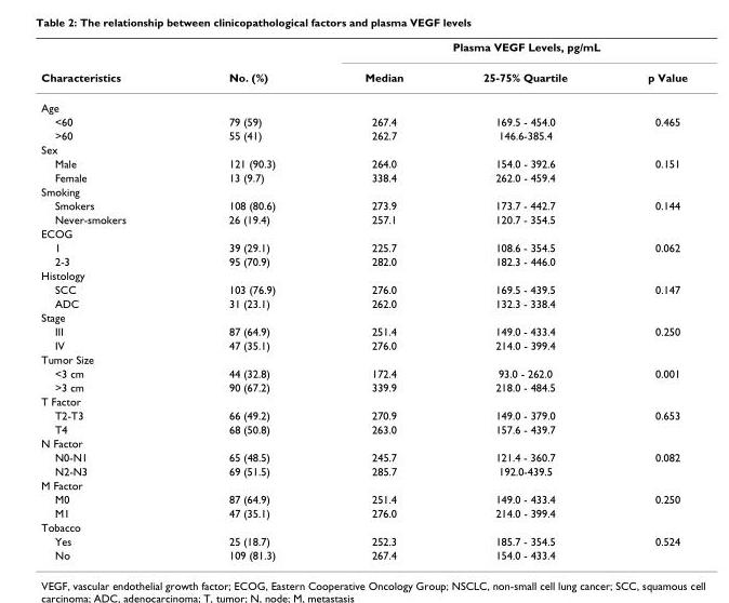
<table><thead><tr><td rowspan="2">Characteristics</td><td rowspan="2">No. (%)</td><td colspan="3">Plasma VEGF Levels, pg/mL</td></tr><tr><td>Median</td><td>25-75% Quartile</td><td>p Value</td></tr></thead><tbody><tr><td colspan="5">Age</td></tr><tr><td>&lt;60</td><td>79 (59)</td><td>267.4</td><td>169.5 - 454.0</td><td>0.465</td></tr><tr><td>&gt;60</td><td>55 (41)</td><td>262.7</td><td>146.6-385.4</td><td></td></tr><tr><td colspan="5">Sex</td></tr><tr><td>Male</td><td>121 (90.3)</td><td>264.0</td><td>154.0 - 392.6</td><td>0.151</td></tr><tr><td>Female</td><td>13 (9.7)</td><td>338.4</td><td>262.0 - 459.4</td><td></td></tr><tr><td colspan="5">Smoking</td></tr><tr><td>Smokers</td><td>108 (80.6)</td><td>273.9</td><td>173.7 - 442.7</td><td>0.144</td></tr><tr><td>Never-smokers</td><td>26 (19.4)</td><td>257.1</td><td>120.7 - 354.5</td><td></td></tr><tr><td colspan="5">ECOG</td></tr><tr><td>1</td><td>39 (29.1)</td><td>225.7</td><td>108.6 - 354.5</td><td>0.062</td></tr><tr><td>2-3</td><td>95 (70.9)</td><td>282.0</td><td>182.3 - 446.0</td><td></td></tr><tr><td colspan="5">Histology</td></tr><tr><td>SCC</td><td>103 (76.9)</td><td>276.0</td><td>169.5 - 439.5</td><td>0.147</td></tr><tr><td>ADC</td><td>31 (23.1)</td><td>262.0</td><td>132.3 - 338.4</td><td></td></tr><tr><td colspan="5">Stage</td></tr><tr><td>III</td><td>87 (64.9)</td><td>251.4</td><td>149.0 - 433.4</td><td>0.250</td></tr><tr><td>IV</td><td>47 (35.1)</td><td>276.0</td><td>214.0 - 399.4</td><td></td></tr><tr><td colspan="5">Tumor Size</td></tr><tr><td>&lt;3 cm</td><td>44 (32.8)</td><td>172.4</td><td>93.0 - 262.0</td><td>0.001</td></tr><tr><td>&gt;3 cm</td><td>90 (67.2)</td><td>339.9</td><td>218.0 - 484.5</td><td></td></tr><tr><td colspan="5">T Factor</td></tr><tr><td>T2-T3</td><td>66 (49.2)</td><td>270.9</td><td>149.0 - 379.0</td><td>0.653</td></tr><tr><td>T4</td><td>68 (50.8)</td><td>263.0</td><td>157.6 - 439.7</td><td></td></tr><tr><td colspan="5">N Factor</td></tr><tr><td>N0-N1</td><td>65 (48.5)</td><td>245.7</td><td>121.4 - 360.7</td><td>0.082</td></tr><tr><td>N2-N3</td><td>69 (51.5)</td><td>285.7</td><td>192.0-439.5</td><td></td></tr><tr><td colspan="5">M Factor</td></tr><tr><td>M0</td><td>87 (64.9)</td><td>251.4</td><td>149.0 - 433.4</td><td>0.250</td></tr><tr><td>M1</td><td>47 (35.1)</td><td>276.0</td><td>214.0 - 399.4</td><td></td></tr><tr><td colspan="5">Tobacco</td></tr><tr><td>Yes</td><td>25 (18.7)</td><td>252.3</td><td>185.7 - 354.5</td><td>0.524</td></tr><tr><td>No</td><td>109 (81.3)</td><td>267.4</td><td>154.0 - 433.4</td><td></td></tr></tbody></table>